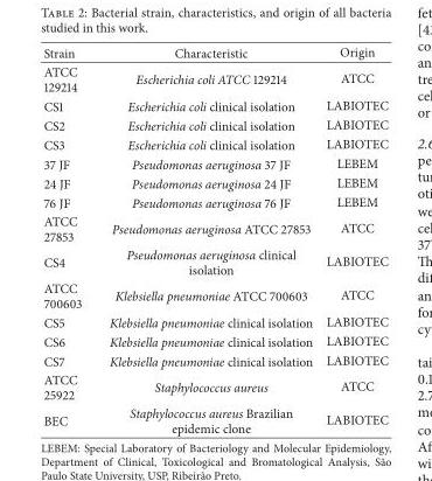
<table><thead><tr><td>Strain</td><td>Characteristic</td><td>Origin</td></tr></thead><tbody><tr><td>ATCC 129214</td><td>Escherichia coli ATCC 129214</td><td>ATCC</td></tr><tr><td>CS1</td><td>Escherichia coli clinical isolation</td><td>LABIOTEC</td></tr><tr><td>CS2</td><td>Escherichia coli clinical isolation</td><td>LABIOTEC</td></tr><tr><td>CS3</td><td>Escherichia coli clinical isolation</td><td>LABIOTEC</td></tr><tr><td>37 JF</td><td>Pseudomonas aeruginosa 37 JF</td><td>LEBEM</td></tr><tr><td>24 JF</td><td>Pseudomonas aeruginosa 24 JF</td><td>LEBEM</td></tr><tr><td>76 JF</td><td>Pseudomonas aeruginosa 76 JF</td><td>LEBEM</td></tr><tr><td>ATCC 27853</td><td>Pseudomonas aeruginosa ATCC 27853</td><td>ATCC</td></tr><tr><td>CS4</td><td>Pseudomonas aeruginosa clinical isolation</td><td>LABIOTEC</td></tr><tr><td>ATCC 700603</td><td>Klebsiella pneumoniae ATCC 700603</td><td>ATCC</td></tr><tr><td>CS5</td><td>Klebsiella pneumoniae clinical isolation</td><td>LABIOTEC</td></tr><tr><td>CS6</td><td>Klebsiella pneumoniae clinical isolation</td><td>LABIOTEC</td></tr><tr><td>CS7</td><td>Klebsiella pneumoniae clinical isolation</td><td>LABIOTEC</td></tr><tr><td>ATCC 25922</td><td>Staphylococcus aureus</td><td>ATCC</td></tr><tr><td>BEC</td><td>Staphylococcus aureus Brazilian epidemic clone</td><td>LABIOTEC</td></tr></tbody></table>